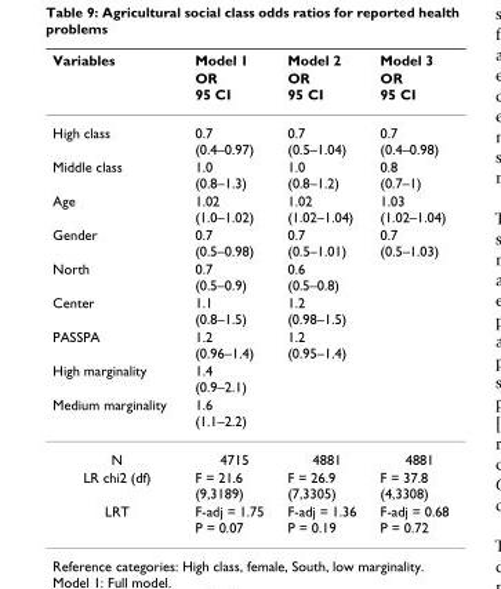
<table><thead><tr><td rowspan="2">Variables</td><td rowspan="2">Model 1 OR 95 CI</td><td rowspan="2">Model 2 OR 95 CI</td><td rowspan="2">Model 3 OR 95 CI</td></tr><tr></tr></thead><tbody><tr><td>High class</td><td>0.7 (0.4–0.97)</td><td>0.7 (0.5–1.04)</td><td>0.7 (0.4–0.98)</td></tr><tr><td>Middle class</td><td>1.0 (0.8–1.3)</td><td>1.0 (0.8–1.2)</td><td>0.8 (0.7–1)</td></tr><tr><td>Age</td><td>1.02 (1.0–1.02)</td><td>1.02 (1.02–1.04)</td><td>1.03 (1.02–1.04)</td></tr><tr><td>Gender</td><td>0.7 (0.5–0.98)</td><td>0.7 (0.5–1.01)</td><td>0.7 (0.5–1.03)</td></tr><tr><td>North</td><td>0.7 (0.5–0.9)</td><td>0.6 (0.5–0.8)</td><td></td></tr><tr><td>Center</td><td>1.1 (0.8–1.5)</td><td>1.2 (0.98–1.5)</td><td></td></tr><tr><td>PASSPA</td><td>1.2 (0.96–1.4)</td><td>1.2 (0.95–1.4)</td><td></td></tr><tr><td>High marginality</td><td>1.4 (0.9–2.1)</td><td></td><td></td></tr><tr><td>Medium marginality</td><td>1.6 (1.1–2.2)</td><td></td><td></td></tr><tr><td>N</td><td>4715</td><td>4881</td><td>4881</td></tr><tr><td>LR chi2 (df)</td><td>F = 21.6 (9,3189)</td><td>F = 26.9 (7,3305)</td><td>F = 37.8 (4,3308)</td></tr><tr><td>LRT</td><td>F-adj = 1.75 P = 0.07</td><td>F-adj = 1.36 P = 0.19</td><td>F-adj = 0.68 P = 0.72</td></tr></tbody></table>